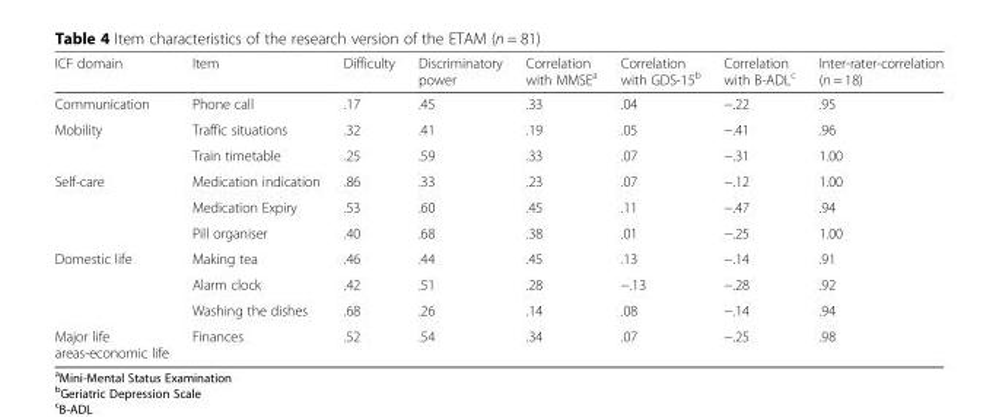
<table><thead><tr><td>ICF domain</td><td>Item</td><td>Difficulty</td><td>Discriminatory power</td><td>Correlation with MMSE<sup>a</sup></td><td>Correlation with GDS-15<sup>b</sup></td><td>Correlation with B-ADL<sup>c</sup></td><td>Inter-rater-correlation (n = 18)</td></tr></thead><tbody><tr><td>Communication</td><td>Phone call</td><td>.17</td><td>.45</td><td>.33</td><td>.04</td><td>−.22</td><td>.95</td></tr><tr><td rowspan="2">Mobility</td><td>Traffic situations</td><td>.32</td><td>.41</td><td>.19</td><td>.05</td><td>−.41</td><td>.96</td></tr><tr><td>Train timetable</td><td>.25</td><td>.59</td><td>.33</td><td>.07</td><td>−.31</td><td>1.00</td></tr><tr><td rowspan="3">Self-care</td><td>Medication indication</td><td>.86</td><td>.33</td><td>.23</td><td>.07</td><td>−.12</td><td>1.00</td></tr><tr><td>Medication Expiry</td><td>.53</td><td>.60</td><td>.45</td><td>.11</td><td>−.47</td><td>.94</td></tr><tr><td>Pill organiser</td><td>.40</td><td>.68</td><td>.38</td><td>.01</td><td>−.25</td><td>1.00</td></tr><tr><td rowspan="3">Domestic life</td><td>Making tea</td><td>.46</td><td>.44</td><td>.45</td><td>.13</td><td>−.14</td><td>.91</td></tr><tr><td>Alarm clock</td><td>.42</td><td>.51</td><td>.28</td><td>−.13</td><td>−.28</td><td>.92</td></tr><tr><td>Washing the dishes</td><td>.68</td><td>.26</td><td>.14</td><td>.08</td><td>−.14</td><td>.94</td></tr><tr><td>Major life areas-economic life</td><td>Finances</td><td>.52</td><td>.54</td><td>.34</td><td>.07</td><td>−.25</td><td>.98</td></tr></tbody></table>